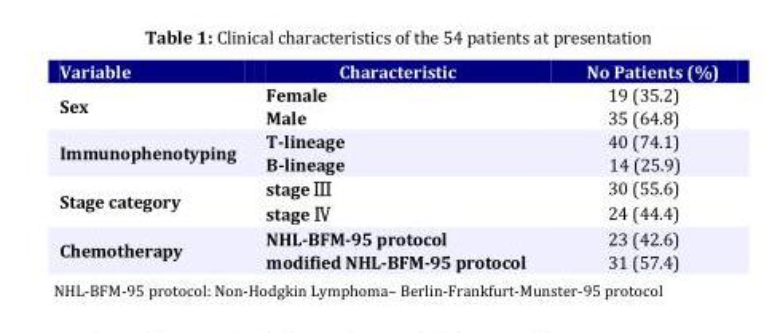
<table><thead><tr><td>Variable</td><td>Characteristic</td><td>No Patients (%)</td></tr></thead><tbody><tr><td rowspan="2">Sex</td><td>Female</td><td>19 (35.2)</td></tr><tr><td>Male</td><td>35 (64.8)</td></tr><tr><td rowspan="2">Immunophenotyping</td><td>T-lineage</td><td>40 (74.1)</td></tr><tr><td>B-lineage</td><td>14 (25.9)</td></tr><tr><td rowspan="2">Stage category</td><td>stage Ⅲ</td><td>30 (55.6)</td></tr><tr><td>stage Ⅳ</td><td>24 (44.4)</td></tr><tr><td rowspan="2">Chemotherapy</td><td>NHL-BFM-95 protocol</td><td>23 (42.6)</td></tr><tr><td>modified NHL-BFM-95 protocol</td><td>31 (57.4)</td></tr></tbody></table>